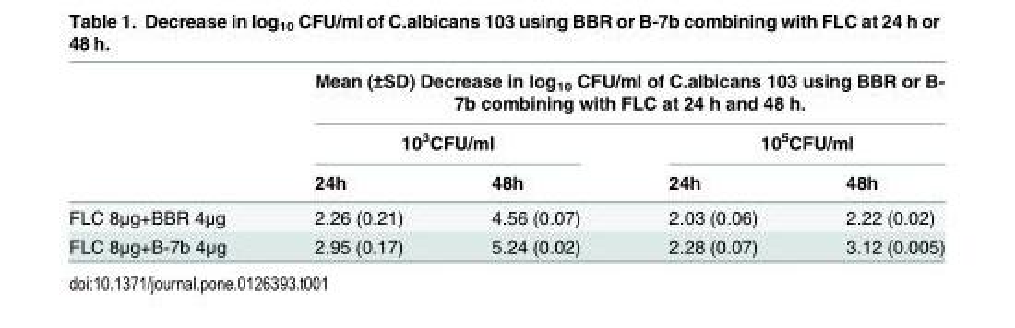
<table><thead><tr><td rowspan="3"></td><td colspan="4">Mean (±SD) Decrease in log<sub>10</sub> CFU/ml of C.albicans 103 using BBR or B- 7b combining with FLC at 24 h and 48 h.</td></tr><tr><td colspan="2">10<sup>3</sup>CFU/ml</td><td colspan="2">10<sup>5</sup>CFU/ml</td></tr><tr><td>24h</td><td>48h</td><td>24h</td><td>48h</td></tr></thead><tbody><tr><td>FLC 8μg+BBR 4μg</td><td>2.26 (0.21)</td><td>4.56 (0.07)</td><td>2.03 (0.06)</td><td>2.22 (0.02)</td></tr><tr><td>FLC 8μg+B-7b 4μg</td><td>2.95 (0.17)</td><td>5.24 (0.02)</td><td>2.28 (0.07)</td><td>3.12 (0.005)</td></tr></tbody></table>